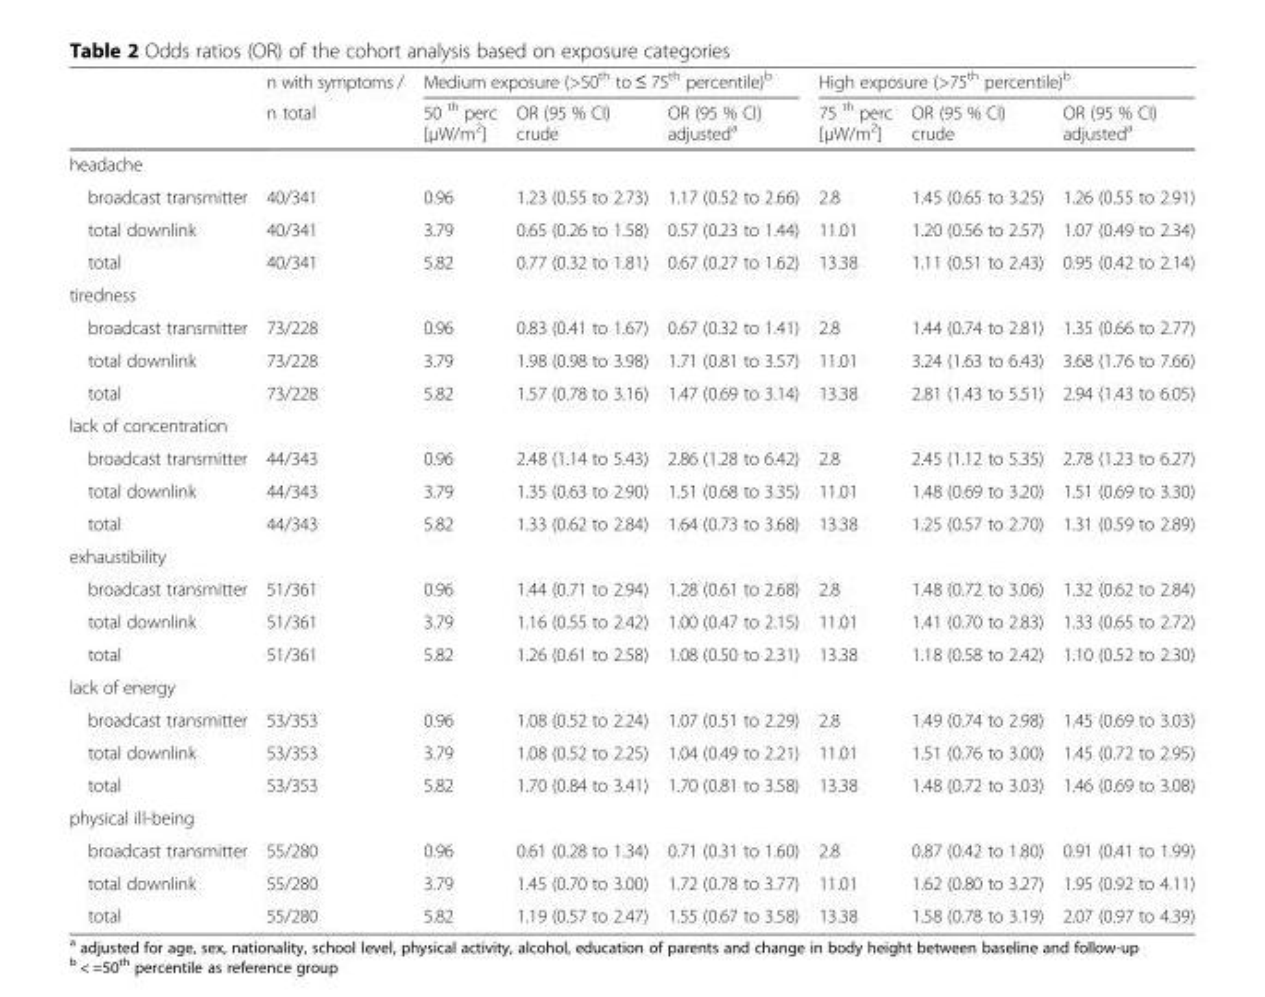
<table><thead><tr><td rowspan="2"></td><td rowspan="2">n with symptoms / n total</td><td colspan="3">Medium exposure (&gt;50<sup>th</sup> to ≤ 75<sup>th</sup> percentile)<sup>b</sup></td><td colspan="3">High exposure (&gt;75<sup>th</sup> percentile)<sup>b</sup></td></tr><tr><td>50 <sup>th</sup> perc [μW/m<sup>2</sup>]</td><td>OR (95 % CI) crude</td><td>OR (95 % CI) adjusted<sup>a</sup></td><td>75 <sup>th</sup> perc [μW/m<sup>2</sup>]</td><td>OR (95 % CI) crude</td><td>OR (95 % CI) adjusted<sup>a</sup></td></tr></thead><tbody><tr><td colspan="8">headache</td></tr><tr><td>broadcast transmitter</td><td>40/341</td><td>0.96</td><td>1.23 (0.55 to 2.73)</td><td>1.17 (0.52 to 2.66)</td><td>2.8</td><td>1.45 (0.65 to 3.25)</td><td>1.26 (0.55 to 2.91)</td></tr><tr><td>total downlink</td><td>40/341</td><td>3.79</td><td>0.65 (0.26 to 1.58)</td><td>0.57 (0.23 to 1.44)</td><td>11.01</td><td>1.20 (0.56 to 2.57)</td><td>1.07 (0.49 to 2.34)</td></tr><tr><td>total</td><td>40/341</td><td>5.82</td><td>0.77 (0.32 to 1.81)</td><td>0.67 (0.27 to 1.62)</td><td>13.38</td><td>1.11 (0.51 to 2.43)</td><td>0.95 (0.42 to 2.14)</td></tr><tr><td colspan="8">tiredness</td></tr><tr><td>broadcast transmitter</td><td>73/228</td><td>0.96</td><td>0.83 (0.41 to 1.67)</td><td>0.67 (0.32 to 1.41)</td><td>2.8</td><td>1.44 (0.74 to 2.81)</td><td>1.35 (0.66 to 2.77)</td></tr><tr><td>total downlink</td><td>73/228</td><td>3.79</td><td>1.98 (0.98 to 3.98)</td><td>1.71 (0.81 to 3.57)</td><td>11.01</td><td>3.24 (1.63 to 6.43)</td><td>3.68 (1.76 to 7.66)</td></tr><tr><td>total</td><td>73/228</td><td>5.82</td><td>1.57 (0.78 to 3.16)</td><td>1.47 (0.69 to 3.14)</td><td>13.38</td><td>2.81 (1.43 to 5.51)</td><td>2.94 (1.43 to 6.05)</td></tr><tr><td colspan="8">lack of concentration</td></tr><tr><td>broadcast transmitter</td><td>44/343</td><td>0.96</td><td>2.48 (1.14 to 5.43)</td><td>2.86 (1.28 to 6.42)</td><td>2.8</td><td>2.45 (1.12 to 5.35)</td><td>2.78 (1.23 to 6.27)</td></tr><tr><td>total downlink</td><td>44/343</td><td>3.79</td><td>1.35 (0.63 to 2.90)</td><td>1.51 (0.68 to 3.35)</td><td>11.01</td><td>1.48 (0.69 to 3.20)</td><td>1.51 (0.69 to 3.30)</td></tr><tr><td>total</td><td>44/343</td><td>5.82</td><td>1.33 (0.62 to 2.84)</td><td>1.64 (0.73 to 3.68)</td><td>13.38</td><td>1.25 (0.57 to 2.70)</td><td>1.31 (0.59 to 2.89)</td></tr><tr><td colspan="8">exhaustibility</td></tr><tr><td>broadcast transmitter</td><td>51/361</td><td>0.96</td><td>1.44 (0.71 to 2.94)</td><td>1.28 (0.61 to 2.68)</td><td>2.8</td><td>1.48 (0.72 to 3.06)</td><td>1.32 (0.62 to 2.84)</td></tr><tr><td>total downlink</td><td>51/361</td><td>3.79</td><td>1.16 (0.55 to 2.42)</td><td>1.00 (0.47 to 2.15)</td><td>11.01</td><td>1.41 (0.70 to 2.83)</td><td>1.33 (0.65 to 2.72)</td></tr><tr><td>total</td><td>51/361</td><td>5.82</td><td>1.26 (0.61 to 2.58)</td><td>1.08 (0.50 to 2.31)</td><td>13.38</td><td>1.18 (0.58 to 2.42)</td><td>1.10 (0.52 to 2.30)</td></tr><tr><td colspan="8">lack of energy</td></tr><tr><td>broadcast transmitter</td><td>53/353</td><td>0.96</td><td>1.08 (0.52 to 2.24)</td><td>1.07 (0.51 to 2.29)</td><td>2.8</td><td>1.49 (0.74 to 2.98)</td><td>1.45 (0.69 to 3.03)</td></tr><tr><td>total downlink</td><td>53/353</td><td>3.79</td><td>1.08 (0.52 to 2.25)</td><td>1.04 (0.49 to 2.21)</td><td>11.01</td><td>1.51 (0.76 to 3.00)</td><td>1.45 (0.72 to 2.95)</td></tr><tr><td>total</td><td>53/353</td><td>5.82</td><td>1.70 (0.84 to 3.41)</td><td>1.70 (0.81 to 3.58)</td><td>13.38</td><td>1.48 (0.72 to 3.03)</td><td>1.46 (0.69 to 3.08)</td></tr><tr><td colspan="8">physical ill-being</td></tr><tr><td>broadcast transmitter</td><td>55/280</td><td>0.96</td><td>0.61 (0.28 to 1.34)</td><td>0.71 (0.31 to 1.60)</td><td>2.8</td><td>0.87 (0.42 to 1.80)</td><td>0.91 (0.41 to 1.99)</td></tr><tr><td>total downlink</td><td>55/280</td><td>3.79</td><td>1.45 (0.70 to 3.00)</td><td>1.72 (0.78 to 3.77)</td><td>11.01</td><td>1.62 (0.80 to 3.27)</td><td>1.95 (0.92 to 4.11)</td></tr><tr><td>total</td><td>55/280</td><td>5.82</td><td>1.19 (0.57 to 2.47)</td><td>1.55 (0.67 to 3.58)</td><td>13.38</td><td>1.58 (0.78 to 3.19)</td><td>2.07 (0.97 to 4.39)</td></tr></tbody></table>